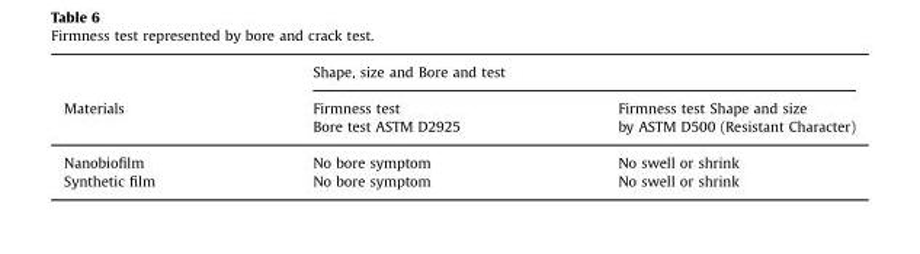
<table><thead><tr><td rowspan="3">Materials</td><td colspan="2">Shape, size and Bore and test</td></tr><tr><td rowspan="2">Firmness test Bore test ASTM D2925</td><td rowspan="2">Firmness test Shape and size by ASTM D500 (Resistant Character)</td></tr><tr></tr></thead><tbody><tr><td>Nanobiofilm</td><td>No bore symptom</td><td>No swell or shrink</td></tr><tr><td>Synthetic film</td><td>No bore symptom</td><td>No swell or shrink</td></tr></tbody></table>